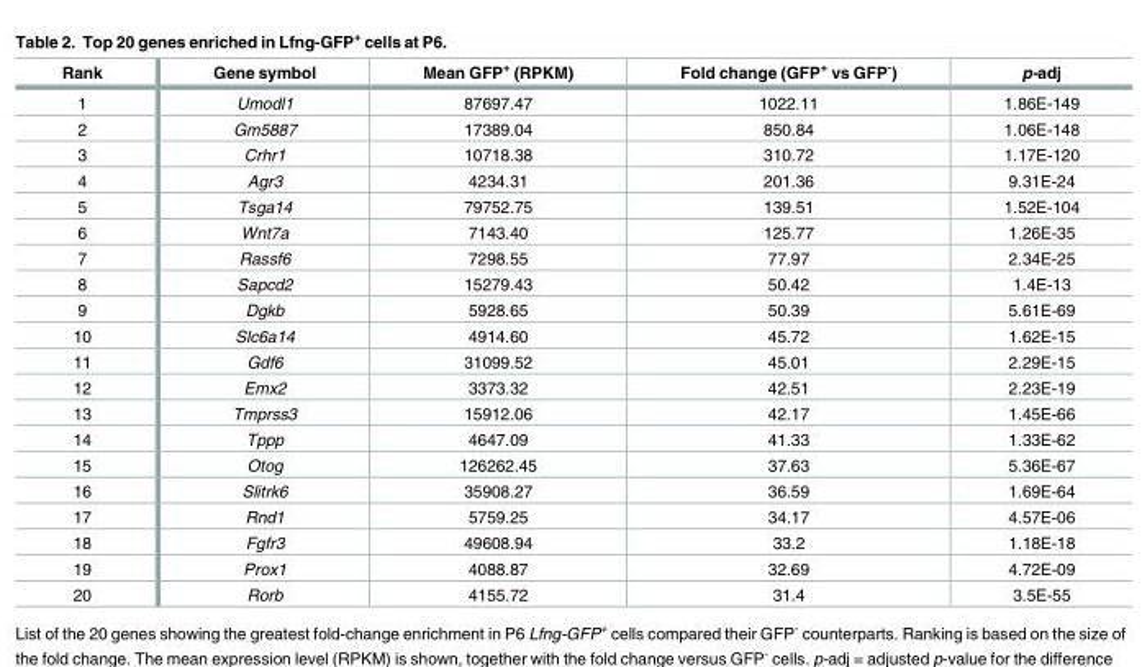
<table><thead><tr><td>Rank</td><td>Gene symbol</td><td>Mean GFP<sup>+</sup> (RPKM)</td><td>Fold change (GFP<sup>+</sup> vs GFP<sup>-</sup>)</td><td>p-adj</td></tr></thead><tbody><tr><td>1</td><td>Umodl1</td><td>87697.47</td><td>1022.11</td><td>1.86E-149</td></tr><tr><td>2</td><td>Gm5887</td><td>17389.04</td><td>850.84</td><td>1.06E-148</td></tr><tr><td>3</td><td>Crhr1</td><td>10718.38</td><td>310.72</td><td>1.17E-120</td></tr><tr><td>4</td><td>Agr3</td><td>4234.31</td><td>201.36</td><td>9.31E-24</td></tr><tr><td>5</td><td>Tsga14</td><td>79752.75</td><td>139.51</td><td>1.52E-104</td></tr><tr><td>6</td><td>Wnt7a</td><td>7143.40</td><td>125.77</td><td>1.26E-35</td></tr><tr><td>7</td><td>Rassf6</td><td>7298.55</td><td>77.97</td><td>2.34E-25</td></tr><tr><td>8</td><td>Sapcd2</td><td>15279.43</td><td>50.42</td><td>1.4E-13</td></tr><tr><td>9</td><td>Dgkb</td><td>5928.65</td><td>50.39</td><td>5.61E-69</td></tr><tr><td>10</td><td>Slc6a14</td><td>4914.60</td><td>45.72</td><td>1.62E-15</td></tr><tr><td>11</td><td>Gdf6</td><td>31099.52</td><td>45.01</td><td>2.29E-15</td></tr><tr><td>12</td><td>Emx2</td><td>3373.32</td><td>42.51</td><td>2.23E-19</td></tr><tr><td>13</td><td>Tmprss3</td><td>15912.06</td><td>42.17</td><td>1.45E-66</td></tr><tr><td>14</td><td>Tppp</td><td>4647.09</td><td>41.33</td><td>1.33E-62</td></tr><tr><td>15</td><td>Otog</td><td>126262.45</td><td>37.63</td><td>5.36E-67</td></tr><tr><td>16</td><td>Slitrk6</td><td>35908.27</td><td>36.59</td><td>1.69E-64</td></tr><tr><td>17</td><td>Rnd1</td><td>5759.25</td><td>34.17</td><td>4.57E-06</td></tr><tr><td>18</td><td>Fgfr3</td><td>49608.94</td><td>33.2</td><td>1.18E-18</td></tr><tr><td>19</td><td>Prox1</td><td>4088.87</td><td>32.69</td><td>4.72E-09</td></tr><tr><td>20</td><td>Rorb</td><td>4155.72</td><td>31.4</td><td>3.5E-55</td></tr></tbody></table>